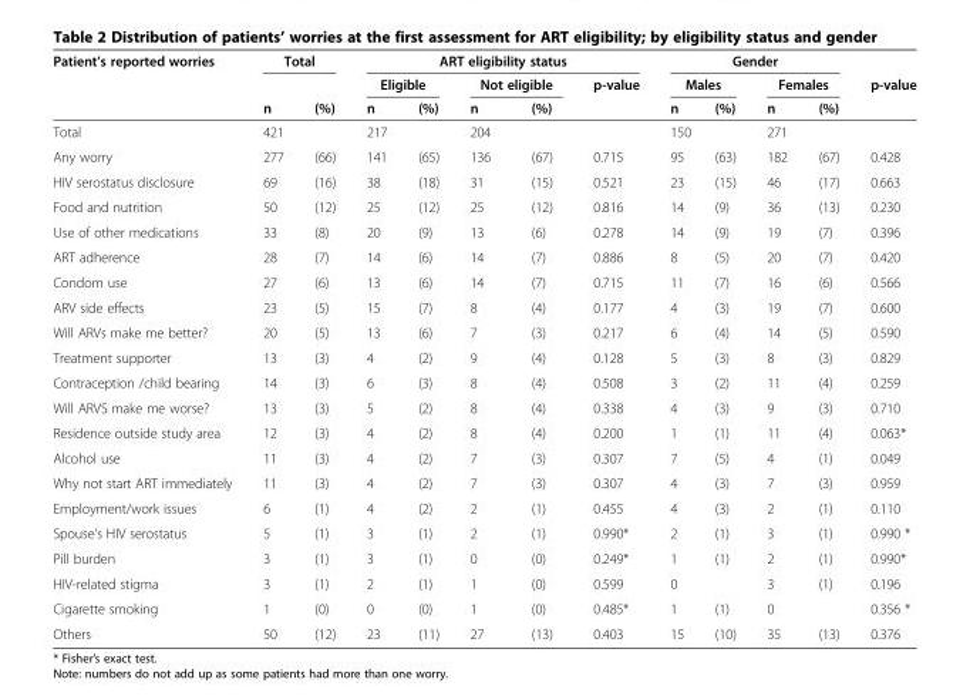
<table><thead><tr><td rowspan="3">Patient’s reported worries</td><td colspan="2">Total</td><td colspan="5">ART eligibility status</td><td colspan="4">Gender</td><td rowspan="3">p-value</td></tr><tr><td rowspan="2">n</td><td rowspan="2">(%)</td><td colspan="2">Eligible</td><td colspan="2">Not eligible</td><td rowspan="2">p-value</td><td colspan="2">Males</td><td colspan="2">Females</td></tr><tr><td>n</td><td>(%)</td><td>n</td><td>(%)</td><td>n</td><td>(%)</td><td>n</td><td>(%)</td></tr></thead><tbody><tr><td>Total</td><td colspan="2">421</td><td colspan="2">217</td><td colspan="2">204</td><td></td><td colspan="2">150</td><td colspan="2">271</td><td></td></tr><tr><td>Any worry</td><td>277</td><td>(66)</td><td>141</td><td>(65)</td><td>136</td><td>(67)</td><td>0.715</td><td>95</td><td>(63)</td><td>182</td><td>(67)</td><td>0.428</td></tr><tr><td>HIV serostatus disclosure</td><td>69</td><td>(16)</td><td>38</td><td>(18)</td><td>31</td><td>(15)</td><td>0.521</td><td>23</td><td>(15)</td><td>46</td><td>(17)</td><td>0.663</td></tr><tr><td>Food and nutrition</td><td>50</td><td>(12)</td><td>25</td><td>(12)</td><td>25</td><td>(12)</td><td>0.816</td><td>14</td><td>(9)</td><td>36</td><td>(13)</td><td>0.230</td></tr><tr><td>Use of other medications</td><td>33</td><td>(8)</td><td>20</td><td>(9)</td><td>13</td><td>(6)</td><td>0.278</td><td>14</td><td>(9)</td><td>19</td><td>(7)</td><td>0.396</td></tr><tr><td>ART adherence</td><td>28</td><td>(7)</td><td>14</td><td>(6)</td><td>14</td><td>(7)</td><td>0.886</td><td>8</td><td>(5)</td><td>20</td><td>(7)</td><td>0.420</td></tr><tr><td>Condom use</td><td>27</td><td>(6)</td><td>13</td><td>(6)</td><td>14</td><td>(7)</td><td>0.715</td><td>11</td><td>(7)</td><td>16</td><td>(6)</td><td>0.566</td></tr><tr><td>ARV side effects</td><td>23</td><td>(5)</td><td>15</td><td>(7)</td><td>8</td><td>(4)</td><td>0.177</td><td>4</td><td>(3)</td><td>19</td><td>(7)</td><td>0.600</td></tr><tr><td>Will ARVs make me better?</td><td>20</td><td>(5)</td><td>13</td><td>(6)</td><td>7</td><td>(3)</td><td>0.217</td><td>6</td><td>(4)</td><td>14</td><td>(5)</td><td>0.590</td></tr><tr><td>Treatment supporter</td><td>13</td><td>(3)</td><td>4</td><td>(2)</td><td>9</td><td>(4)</td><td>0.128</td><td>5</td><td>(3)</td><td>8</td><td>(3)</td><td>0.829</td></tr><tr><td>Contraception /child bearing</td><td>14</td><td>(3)</td><td>6</td><td>(3)</td><td>8</td><td>(4)</td><td>0.508</td><td>3</td><td>(2)</td><td>11</td><td>(4)</td><td>0.259</td></tr><tr><td>Will ARVS make me worse?</td><td>13</td><td>(3)</td><td>5</td><td>(2)</td><td>8</td><td>(4)</td><td>0.338</td><td>4</td><td>(3)</td><td>9</td><td>(3)</td><td>0.710</td></tr><tr><td>Residence outside study area</td><td>12</td><td>(3)</td><td>4</td><td>(2)</td><td>8</td><td>(4)</td><td>0.200</td><td>1</td><td>(1)</td><td>11</td><td>(4)</td><td>0.063*</td></tr><tr><td>Alcohol use</td><td>11</td><td>(3)</td><td>4</td><td>(2)</td><td>7</td><td>(3)</td><td>0.307</td><td>7</td><td>(5)</td><td>4</td><td>(1)</td><td>0.049</td></tr><tr><td>Why not start ART immediately</td><td>11</td><td>(3)</td><td>4</td><td>(2)</td><td>7</td><td>(3)</td><td>0.307</td><td>4</td><td>(3)</td><td>7</td><td>(3)</td><td>0.959</td></tr><tr><td>Employment/work issues</td><td>6</td><td>(1)</td><td>4</td><td>(2)</td><td>2</td><td>(1)</td><td>0.455</td><td>4</td><td>(3)</td><td>2</td><td>(1)</td><td>0.110</td></tr><tr><td>Spouse’s HIV serostatus</td><td>5</td><td>(1)</td><td>3</td><td>(1)</td><td>2</td><td>(1)</td><td>0.990*</td><td>2</td><td>(1)</td><td>3</td><td>(1)</td><td>0.990 *</td></tr><tr><td>Pill burden</td><td>3</td><td>(1)</td><td>3</td><td>(1)</td><td>0</td><td>(0)</td><td>0.249*</td><td>1</td><td>(1)</td><td>2</td><td>(1)</td><td>0.990*</td></tr><tr><td>HIV-related stigma</td><td>3</td><td>(1)</td><td>2</td><td>(1)</td><td>1</td><td>(0)</td><td>0.599</td><td colspan="2">0</td><td>3</td><td>(1)</td><td>0.196</td></tr><tr><td>Cigarette smoking</td><td>1</td><td>(0)</td><td>0</td><td>(0)</td><td>1</td><td>(0)</td><td>0.485*</td><td>1</td><td>(1)</td><td>0</td><td></td><td>0.356 *</td></tr><tr><td>Others</td><td>50</td><td>(12)</td><td>23</td><td>(11)</td><td>27</td><td>(13)</td><td>0.403</td><td>15</td><td>(10)</td><td>35</td><td>(13)</td><td>0.376</td></tr></tbody></table>